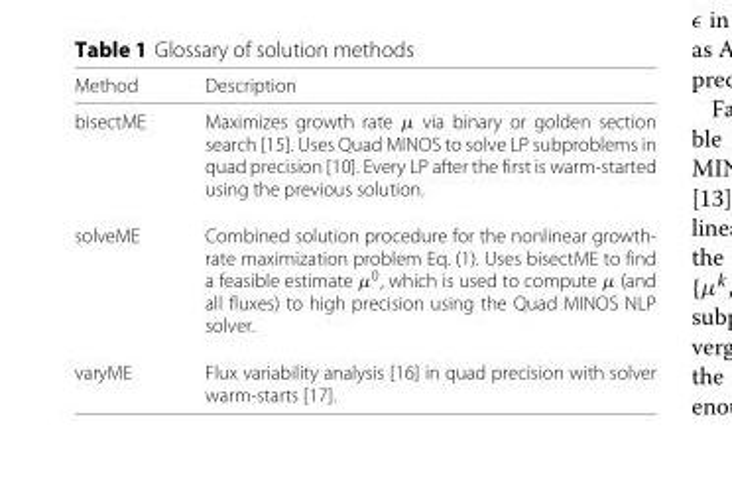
<table><thead><tr><td>Method</td><td>Description</td></tr></thead><tbody><tr><td>bisectME</td><td>Maximizes growth rate μ via binary or golden section search [15]. Uses Quad MINOS to solve LP subproblems in quad precision [10]. Every LP after the first is warm-started using the previous solution.</td></tr><tr><td>solveME</td><td>Combined solution procedure for the nonlinear growth- rate maximization problem Eq. (1). Uses bisectME to find a feasible estimate μ<sup>0</sup>, which is used to compute μ (and all fluxes) to high precision using the Quad MINOS NLP solver.</td></tr><tr><td>varyME</td><td>Flux variability analysis [16] in quad precision with solver warm-starts [17].</td></tr></tbody></table>